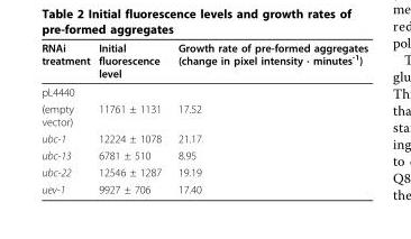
<table><thead><tr><td>RNAi treatment</td><td>Initial fluorescence level</td><td>Growth rate of pre-formed aggregates (change in pixel intensity · minutes<sup>-1</sup>)</td></tr></thead><tbody><tr><td colspan="3">pL4440</td></tr><tr><td>(empty vector)</td><td>11761 ± 1131</td><td>17.52</td></tr><tr><td>ubc-1</td><td>12224 ± 1078</td><td>21.17</td></tr><tr><td>ubc-13</td><td>6781 ± 510</td><td>8.95</td></tr><tr><td>ubc-22</td><td>12546 ± 1287</td><td>19.19</td></tr><tr><td>uev-1</td><td>9927 ± 706</td><td>17.40</td></tr></tbody></table>